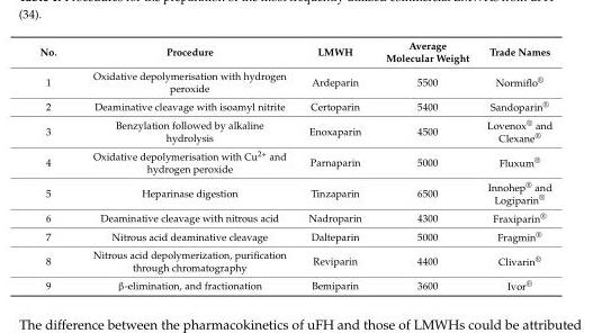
<table><thead><tr><td>No.</td><td>Procedure</td><td>LMWH</td><td>Average Molecular Weight</td><td>Trade Names</td></tr></thead><tbody><tr><td>1</td><td>Oxidative depolymerisation with hydrogen peroxide</td><td>Ardeparin</td><td>5500</td><td>Normiflo<sup>®</sup></td></tr><tr><td>2</td><td>Deaminative cleavage with isoamyl nitrite</td><td>Certoparin</td><td>5400</td><td>Sandoparin<sup>®</sup></td></tr><tr><td>3</td><td>Benzylation followed by alkaline hydrolysis</td><td>Enoxaparin</td><td>4500</td><td>Lovenox<sup>®</sup> and Clexane<sup>®</sup></td></tr><tr><td>4</td><td>Oxidative depolymerisation with Cu<sup>2+</sup> and hydrogen peroxide</td><td>Parnaparin</td><td>5000</td><td>Fluxum<sup>®</sup></td></tr><tr><td>5</td><td>Heparinase digestion</td><td>Tinzaparin</td><td>6500</td><td>Innohep<sup>®</sup> and Logiparin<sup>®</sup></td></tr><tr><td>6</td><td>Deaminative cleavage with nitrous acid</td><td>Nadroparin</td><td>4300</td><td>Fraxiparin<sup>®</sup></td></tr><tr><td>7</td><td>Nitrous acid deaminative cleavage</td><td>Dalteparin</td><td>5000</td><td>Fragmin<sup>®</sup></td></tr><tr><td>8</td><td>Nitrous acid depolymerization, purification through chromatography</td><td>Reviparin</td><td>4400</td><td>Clivarin<sup>®</sup></td></tr><tr><td>9</td><td>β-elimination, and fractionation</td><td>Bemiparin</td><td>3600</td><td>Ivor<sup>®</sup></td></tr></tbody></table>